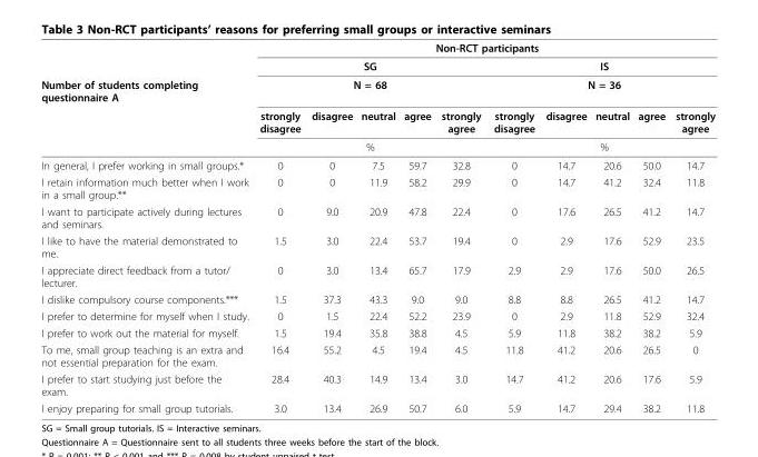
<table><thead><tr><td rowspan="5">Number of students completing questionnaire A</td><td colspan="10">Non-RCT participants</td></tr><tr><td rowspan="2" colspan="5">SG N = 68</td><td rowspan="2" colspan="5">IS N = 36</td></tr><tr></tr><tr><td>strongly disagree</td><td>disagree</td><td>neutral</td><td>agree</td><td>strongly agree</td><td>strongly disagree</td><td>disagree</td><td>neutral</td><td>agree</td><td>strongly agree</td></tr><tr><td colspan="5">%</td><td colspan="5">%</td></tr></thead><tbody><tr><td>In general, I prefer working in small groups.*</td><td>0</td><td>0</td><td>7.5</td><td>59.7</td><td>32.8</td><td>0</td><td>14.7</td><td>20.6</td><td>50.0</td><td>14.7</td></tr><tr><td>I retain information much better when I work in a small group.**</td><td>0</td><td>0</td><td>11.9</td><td>58.2</td><td>29.9</td><td>0</td><td>14.7</td><td>41.2</td><td>32.4</td><td>11.8</td></tr><tr><td>I want to participate actively during lectures and seminars.</td><td>0</td><td>9.0</td><td>20.9</td><td>47.8</td><td>22.4</td><td>0</td><td>17.6</td><td>26.5</td><td>41.2</td><td>14.7</td></tr><tr><td>I like to have the material demonstrated to me.</td><td>1.5</td><td>3.0</td><td>22.4</td><td>53.7</td><td>19.4</td><td>0</td><td>2.9</td><td>17.6</td><td>52.9</td><td>23.5</td></tr><tr><td>I appreciate direct feedback from a tutor/ lecturer.</td><td>0</td><td>3.0</td><td>13.4</td><td>65.7</td><td>17.9</td><td>2.9</td><td>2.9</td><td>17.6</td><td>50.0</td><td>26.5</td></tr><tr><td>I dislike compulsory course components.***</td><td>1.5</td><td>37.3</td><td>43.3</td><td>9.0</td><td>9.0</td><td>8.8</td><td>8.8</td><td>26.5</td><td>41.2</td><td>14.7</td></tr><tr><td>I prefer to determine for myself when I study.</td><td>0</td><td>1.5</td><td>22.4</td><td>52.2</td><td>23.9</td><td>0</td><td>2.9</td><td>11.8</td><td>52.9</td><td>32.4</td></tr><tr><td>I prefer to work out the material for myself.</td><td>1.5</td><td>19.4</td><td>35.8</td><td>38.8</td><td>4.5</td><td>5.9</td><td>11.8</td><td>38.2</td><td>38.2</td><td>5.9</td></tr><tr><td>To me, small group teaching is an extra and not essential preparation for the exam.</td><td>16.4</td><td>55.2</td><td>4.5</td><td>19.4</td><td>4.5</td><td>11.8</td><td>41.2</td><td>20.6</td><td>26.5</td><td>0</td></tr><tr><td>I prefer to start studying just before the exam.</td><td>28.4</td><td>40.3</td><td>14.9</td><td>13.4</td><td>3.0</td><td>14.7</td><td>41.2</td><td>20.6</td><td>17.6</td><td>5.9</td></tr><tr><td>I enjoy preparing for small group tutorials.</td><td>3.0</td><td>13.4</td><td>26.9</td><td>50.7</td><td>6.0</td><td>5.9</td><td>14.7</td><td>29.4</td><td>38.2</td><td>11.8</td></tr></tbody></table>